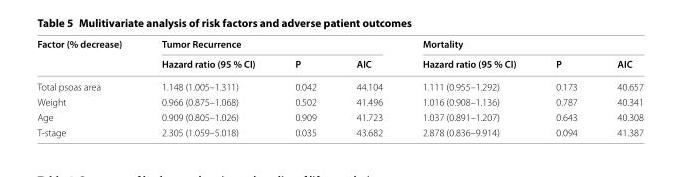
<table><thead><tr><td rowspan="2">Factor (% decrease)</td><td colspan="3">Tumor Recurrence</td><td colspan="3">Mortality</td></tr><tr><td>Hazard ratio (95 % CI)</td><td>P</td><td>AIC</td><td>Hazard ratio (95 % CI)</td><td>P</td><td>AIC</td></tr></thead><tbody><tr><td>Total psoas area</td><td>1.148 (1.005–1.311)</td><td>0.042</td><td>44.104</td><td>1.111 (0.955–1.292)</td><td>0.173</td><td>40.657</td></tr><tr><td>Weight</td><td>0.966 (0.875–1.068)</td><td>0.502</td><td>41.496</td><td>1.016 (0.908–1.136)</td><td>0.787</td><td>40.341</td></tr><tr><td>Age</td><td>0.909 (0.805–1.026)</td><td>0.909</td><td>41.723</td><td>1.037 (0.891–1.207)</td><td>0.643</td><td>40.308</td></tr><tr><td>T-stage</td><td>2.305 (1.059–5.018)</td><td>0.035</td><td>43.682</td><td>2.878 (0.836–9.914)</td><td>0.094</td><td>41.387</td></tr></tbody></table>